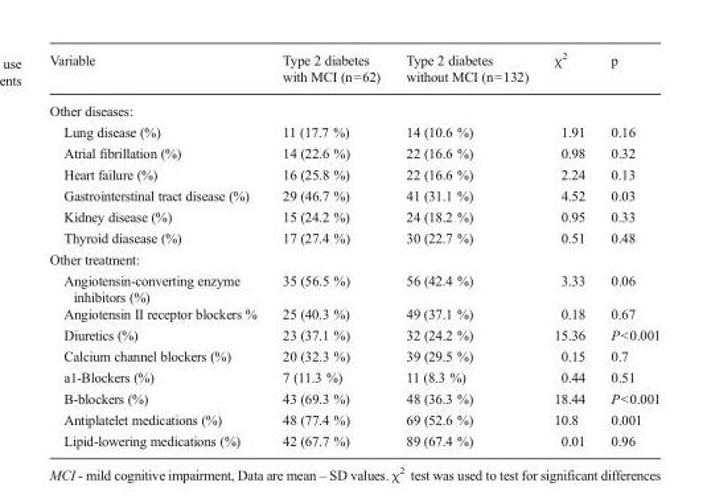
<table><thead><tr><td>Variable</td><td>Type 2 diabetes with MCI (n=62)</td><td>Type 2 diabetes without MCI (n=132)</td><td>χ<sup>2</sup></td><td>p</td></tr></thead><tbody><tr><td colspan="5">Other diseases:</td></tr><tr><td>Lung disease (%)</td><td>11 (17.7 %)</td><td>14 (10.6 %)</td><td>1.91</td><td>0.16</td></tr><tr><td>Atrial fibrillation (%)</td><td>14 (22.6 %)</td><td>22 (16.6 %)</td><td>0.98</td><td>0.32</td></tr><tr><td>Heart failure (%)</td><td>16 (25.8 %)</td><td>22 (16.6 %)</td><td>2.24</td><td>0.13</td></tr><tr><td>Gastrointerstinal tract disease (%)</td><td>29 (46.7 %)</td><td>41 (31.1 %)</td><td>4.52</td><td>0.03</td></tr><tr><td>Kidney disease (%)</td><td>15 (24.2 %)</td><td>24 (18.2 %)</td><td>0.95</td><td>0.33</td></tr><tr><td>Thyroid diasease (%)</td><td>17 (27.4 %)</td><td>30 (22.7 %)</td><td>0.51</td><td>0.48</td></tr><tr><td colspan="5">Other treatment:</td></tr><tr><td>Angiotensin-converting enzyme inhibitors (%)</td><td>35 (56.5 %)</td><td>56 (42.4 %)</td><td>3.33</td><td>0.06</td></tr><tr><td>Angiotensin II receptor blockers %</td><td>25 (40.3 %)</td><td>49 (37.1 %)</td><td>0.18</td><td>0.67</td></tr><tr><td>Diuretics (%)</td><td>23 (37.1 %)</td><td>32 (24.2 %)</td><td>15.36</td><td>P&lt;0.001</td></tr><tr><td>Calcium channel blockers (%)</td><td>20 (32.3 %)</td><td>39 (29.5 %)</td><td>0.15</td><td>0.7</td></tr><tr><td>a1-Blockers (%)</td><td>7 (11.3 %)</td><td>11 (8.3 %)</td><td>0.44</td><td>0.51</td></tr><tr><td>B-blockers (%)</td><td>43 (69.3 %)</td><td>48 (36.3 %)</td><td>18.44</td><td>P&lt;0.001</td></tr><tr><td>Antiplatelet medications (%)</td><td>48 (77.4 %)</td><td>69 (52.6 %)</td><td>10.8</td><td>0.001</td></tr><tr><td>Lipid-lowering medications (%)</td><td>42 (67.7 %)</td><td>89 (67.4 %)</td><td>0.01</td><td>0.96</td></tr></tbody></table>